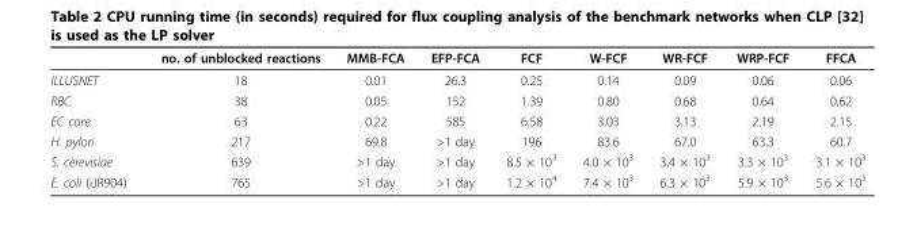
<table><thead><tr><td></td><td>no. of unblocked reactions</td><td>MMB-FCA</td><td>EFP-FCA</td><td>FCF</td><td>W-FCF</td><td>WR-FCF</td><td>WRP-FCF</td><td>FFCA</td></tr></thead><tbody><tr><td>ILLUSNET</td><td>18</td><td>0.01</td><td>26.3</td><td>0.25</td><td>0.14</td><td>0.09</td><td>0.06</td><td>0.06</td></tr><tr><td>RBC</td><td>38</td><td>0.05</td><td>152</td><td>1.39</td><td>0.80</td><td>0.68</td><td>0.64</td><td>0.62</td></tr><tr><td>EC core</td><td>63</td><td>0.22</td><td>585</td><td>6.58</td><td>3.03</td><td>3.13</td><td>2.19</td><td>2.15</td></tr><tr><td>H. pylori</td><td>217</td><td>69.8</td><td>&gt;1 day</td><td>196</td><td>83.6</td><td>67.0</td><td>63.3</td><td>60.7</td></tr><tr><td>S. cerevisiae</td><td>639</td><td>&gt;1 day</td><td>&gt;1 day</td><td>8.5 × 10<sup>3</sup></td><td>4.0 × 10<sup>3</sup></td><td>3.4 × 10<sup>3</sup></td><td>3.3 × 10<sup>3</sup></td><td>3.1 × 10<sup>3</sup></td></tr><tr><td>E. coli (iJR904)</td><td>765</td><td>&gt;1 day</td><td>&gt;1 day</td><td>1.2 × 10<sup>4</sup></td><td>7.4 × 10<sup>3</sup></td><td>6.3 × 10<sup>3</sup></td><td>5.9 × 10<sup>3</sup></td><td>5.6 × 10<sup>3</sup></td></tr></tbody></table>